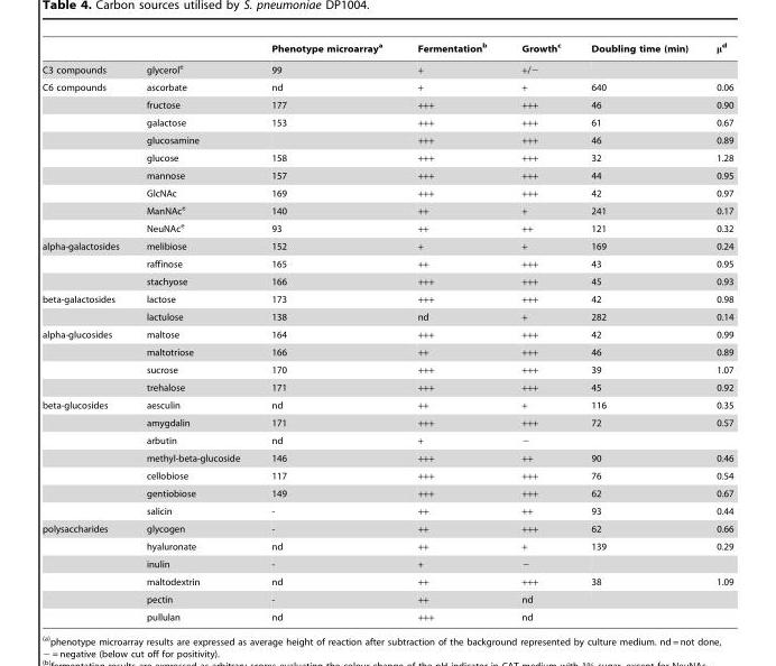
<table><thead><tr><td></td><td></td><td>Phenotype microarray<sup>a</sup></td><td>Fermentation<sup>b</sup></td><td>Growth<sup>c</sup></td><td>Doubling time (min)</td><td>μ<sup>d</sup></td></tr></thead><tbody><tr><td>C3 compounds</td><td>glycerol<sup>e</sup></td><td>99</td><td>+</td><td>+/−</td><td></td><td></td></tr><tr><td rowspan="9">C6 compounds</td><td>ascorbate</td><td>nd</td><td>+</td><td>+</td><td>640</td><td>0.06</td></tr><tr><td>fructose</td><td>177</td><td>+++</td><td>+++</td><td>46</td><td>0.90</td></tr><tr><td>galactose</td><td>153</td><td>+++</td><td>+++</td><td>61</td><td>0.67</td></tr><tr><td>glucosamine</td><td></td><td>+++</td><td>+++</td><td>46</td><td>0.89</td></tr><tr><td>glucose</td><td>158</td><td>+++</td><td>+++</td><td>32</td><td>1.28</td></tr><tr><td>mannose</td><td>157</td><td>+++</td><td>+++</td><td>44</td><td>0.95</td></tr><tr><td>GlcNAc</td><td>169</td><td>+++</td><td>+++</td><td>42</td><td>0.97</td></tr><tr><td>ManNAc<sup>e</sup></td><td>140</td><td>++</td><td>+</td><td>241</td><td>0.17</td></tr><tr><td>NeuNAc<sup>e</sup></td><td>93</td><td>++</td><td>++</td><td>121</td><td>0.32</td></tr><tr><td rowspan="3">alpha-galactosides</td><td>melibiose</td><td>152</td><td>+</td><td>+</td><td>169</td><td>0.24</td></tr><tr><td>raffinose</td><td>165</td><td>++</td><td>+++</td><td>43</td><td>0.95</td></tr><tr><td>stachyose</td><td>166</td><td>+++</td><td>+++</td><td>45</td><td>0.93</td></tr><tr><td rowspan="2">beta-galactosides</td><td>lactose</td><td>173</td><td>+++</td><td>+++</td><td>42</td><td>0.98</td></tr><tr><td>lactulose</td><td>138</td><td>nd</td><td>+</td><td>282</td><td>0.14</td></tr><tr><td rowspan="4">alpha-glucosides</td><td>maltose</td><td>164</td><td>+++</td><td>+++</td><td>42</td><td>0.99</td></tr><tr><td>maltotriose</td><td>166</td><td>++</td><td>+++</td><td>46</td><td>0.89</td></tr><tr><td>sucrose</td><td>170</td><td>+++</td><td>+++</td><td>39</td><td>1.07</td></tr><tr><td>trehalose</td><td>171</td><td>+++</td><td>+++</td><td>45</td><td>0.92</td></tr><tr><td rowspan="7">beta-glucosides</td><td>aesculin</td><td>nd</td><td>++</td><td>+</td><td>116</td><td>0.35</td></tr><tr><td>amygdalin</td><td>171</td><td>+++</td><td>+++</td><td>72</td><td>0.57</td></tr><tr><td>arbutin</td><td>nd</td><td>+</td><td>−</td><td></td><td></td></tr><tr><td>methyl-beta-glucoside</td><td>146</td><td>+++</td><td>++</td><td>90</td><td>0.46</td></tr><tr><td>cellobiose</td><td>117</td><td>+++</td><td>+++</td><td>76</td><td>0.54</td></tr><tr><td>gentiobiose</td><td>149</td><td>+++</td><td>+++</td><td>62</td><td>0.67</td></tr><tr><td>salicin</td><td>-</td><td>++</td><td>++</td><td>93</td><td>0.44</td></tr><tr><td rowspan="6">polysaccharides</td><td>glycogen</td><td>-</td><td>++</td><td>+++</td><td>62</td><td>0.66</td></tr><tr><td>hyaluronate</td><td>nd</td><td>++</td><td>+</td><td>139</td><td>0.29</td></tr><tr><td>inulin</td><td>-</td><td>+</td><td>−</td><td></td><td></td></tr><tr><td>maltodextrin</td><td>nd</td><td>++</td><td>+++</td><td>38</td><td>1.09</td></tr><tr><td>pectin</td><td>-</td><td>++</td><td>nd</td><td></td><td></td></tr><tr><td>pullulan</td><td>nd</td><td>+++</td><td>nd</td><td></td><td></td></tr></tbody></table>